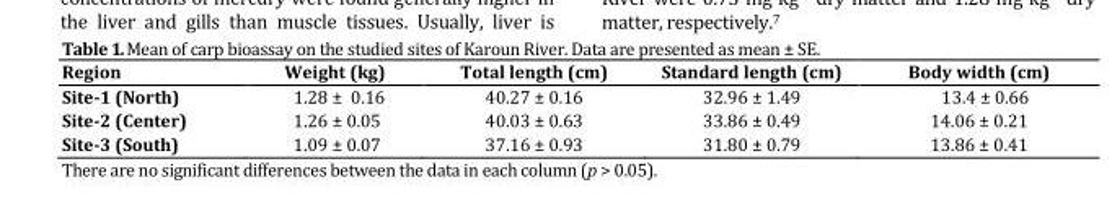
<table><thead><tr><td>Region</td><td>Weight (kg)</td><td>Total length (cm)</td><td>Standard length (cm)</td><td>Body width (cm)</td></tr></thead><tbody><tr><td>Site-1 (North)</td><td>1.28 ± 0.16</td><td>40.27 ± 0.16</td><td>32.96 ± 1.49</td><td>13.4 ± 0.66</td></tr><tr><td>Site-2 (Center)</td><td>1.26 ± 0.05</td><td>40.03 ± 0.63</td><td>33.86 ± 0.49</td><td>14.06 ± 0.21</td></tr><tr><td>Site-3 (South)</td><td>1.09 ± 0.07</td><td>37.16 ± 0.93</td><td>31.80 ± 0.79</td><td>13.86 ± 0.41</td></tr></tbody></table>